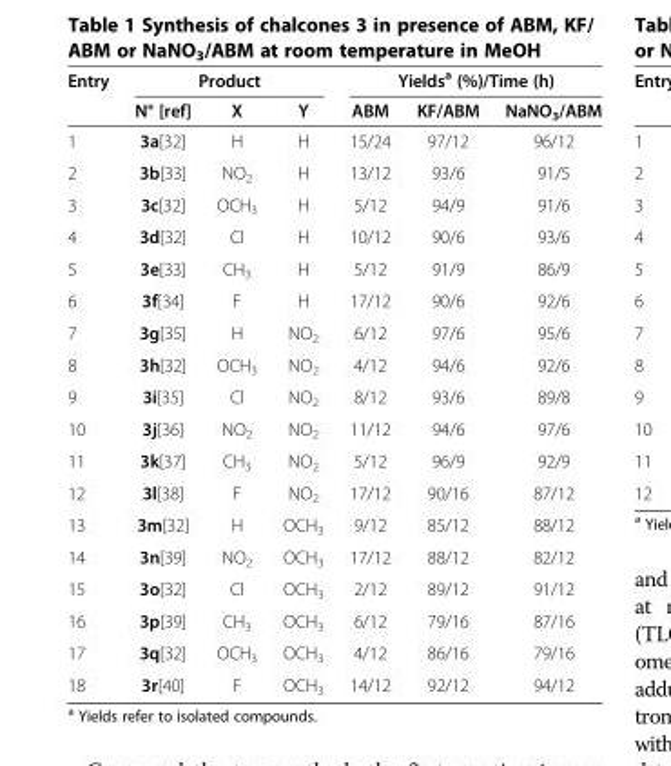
<table><thead><tr><td rowspan="2">Entry</td><td rowspan="2">N° [ref]</td><td rowspan="2">Product X</td><td rowspan="2">Y</td><td colspan="3">Yields<sup>a</sup> (%)/Time (h)</td></tr><tr><td>ABM</td><td>KF/ABM</td><td>NaNO<sub>3</sub>/ABM</td></tr></thead><tbody><tr><td>1</td><td>3a[32]</td><td>H</td><td>H</td><td>15/24</td><td>97/12</td><td>96/12</td></tr><tr><td>2</td><td>3b[33]</td><td>NO<sub>2</sub></td><td>H</td><td>13/12</td><td>93/6</td><td>91/5</td></tr><tr><td>3</td><td>3c[32]</td><td>OCH<sub>3</sub></td><td>H</td><td>5/12</td><td>94/9</td><td>91/6</td></tr><tr><td>4</td><td>3d[32]</td><td>Cl</td><td>H</td><td>10/12</td><td>90/6</td><td>93/6</td></tr><tr><td>5</td><td>3e[33]</td><td>CH<sub>3</sub></td><td>H</td><td>5/12</td><td>91/9</td><td>86/9</td></tr><tr><td>6</td><td>3f[34]</td><td>F</td><td>H</td><td>17/12</td><td>90/6</td><td>92/6</td></tr><tr><td>7</td><td>3g[35]</td><td>H</td><td>NO<sub>2</sub></td><td>6/12</td><td>97/6</td><td>95/6</td></tr><tr><td>8</td><td>3h[32]</td><td>OCH<sub>3</sub></td><td>NO<sub>2</sub></td><td>4/12</td><td>94/6</td><td>92/6</td></tr><tr><td>9</td><td>3i[35]</td><td>Cl</td><td>NO<sub>2</sub></td><td>8/12</td><td>93/6</td><td>89/8</td></tr><tr><td>10</td><td>3j[36]</td><td>NO<sub>2</sub></td><td>NO<sub>2</sub></td><td>11/12</td><td>94/6</td><td>97/6</td></tr><tr><td>11</td><td>3k[37]</td><td>CH<sub>3</sub></td><td>NO<sub>2</sub></td><td>5/12</td><td>96/9</td><td>92/9</td></tr><tr><td>12</td><td>3l[38]</td><td>F</td><td>NO<sub>2</sub></td><td>17/12</td><td>90/16</td><td>87/12</td></tr><tr><td>13</td><td>3m[32]</td><td>H</td><td>OCH<sub>3</sub></td><td>9/12</td><td>85/12</td><td>88/12</td></tr><tr><td>14</td><td>3n[39]</td><td>NO<sub>2</sub></td><td>OCH<sub>3</sub></td><td>17/12</td><td>88/12</td><td>82/12</td></tr><tr><td>15</td><td>3o[32]</td><td>Cl</td><td>OCH<sub>3</sub></td><td>2/12</td><td>89/12</td><td>91/12</td></tr><tr><td>16</td><td>3p[39]</td><td>CH<sub>3</sub></td><td>OCH<sub>3</sub></td><td>6/12</td><td>79/16</td><td>87/16</td></tr><tr><td>17</td><td>3q[32]</td><td>OCH<sub>3</sub></td><td>OCH<sub>3</sub></td><td>4/12</td><td>86/16</td><td>79/16</td></tr><tr><td>18</td><td>3r[40]</td><td>F</td><td>OCH<sub>3</sub></td><td>14/12</td><td>92/12</td><td>94/12</td></tr></tbody></table>